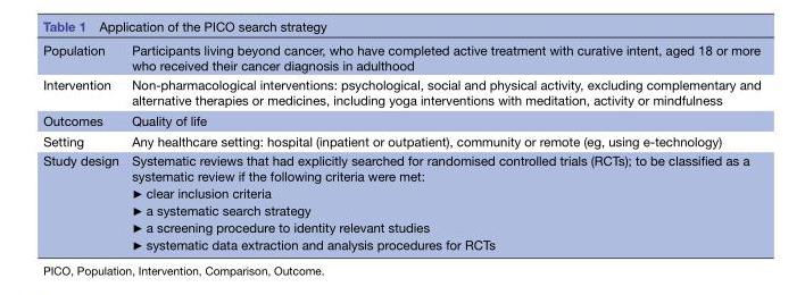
<table><tbody><tr><td>Population</td><td>Participants living beyond cancer, who have completed active treatment with curative intent, aged 18 or more who received their cancer diagnosis in adulthood</td></tr><tr><td>Intervention</td><td>Non-pharmacological interventions: psychological, social and physical activity, excluding complementary and alternative therapies or medicines, including yoga interventions with meditation, activity or mindfulness</td></tr><tr><td>Outcomes</td><td>Quality of life</td></tr><tr><td>Setting</td><td>Any healthcare setting: hospital (inpatient or outpatient), community or remote (eg, using e-technology)</td></tr><tr><td>Study design</td><td>Systematic reviews that had explicitly searched for randomised controlled trials (RCTs); to be classified as a systematic review if the following criteria were met: ► clear inclusion criteria ► a systematic search strategy ► a screening procedure to identity relevant studies ► systematic data extraction and analysis procedures for RCTs</td></tr></tbody></table>